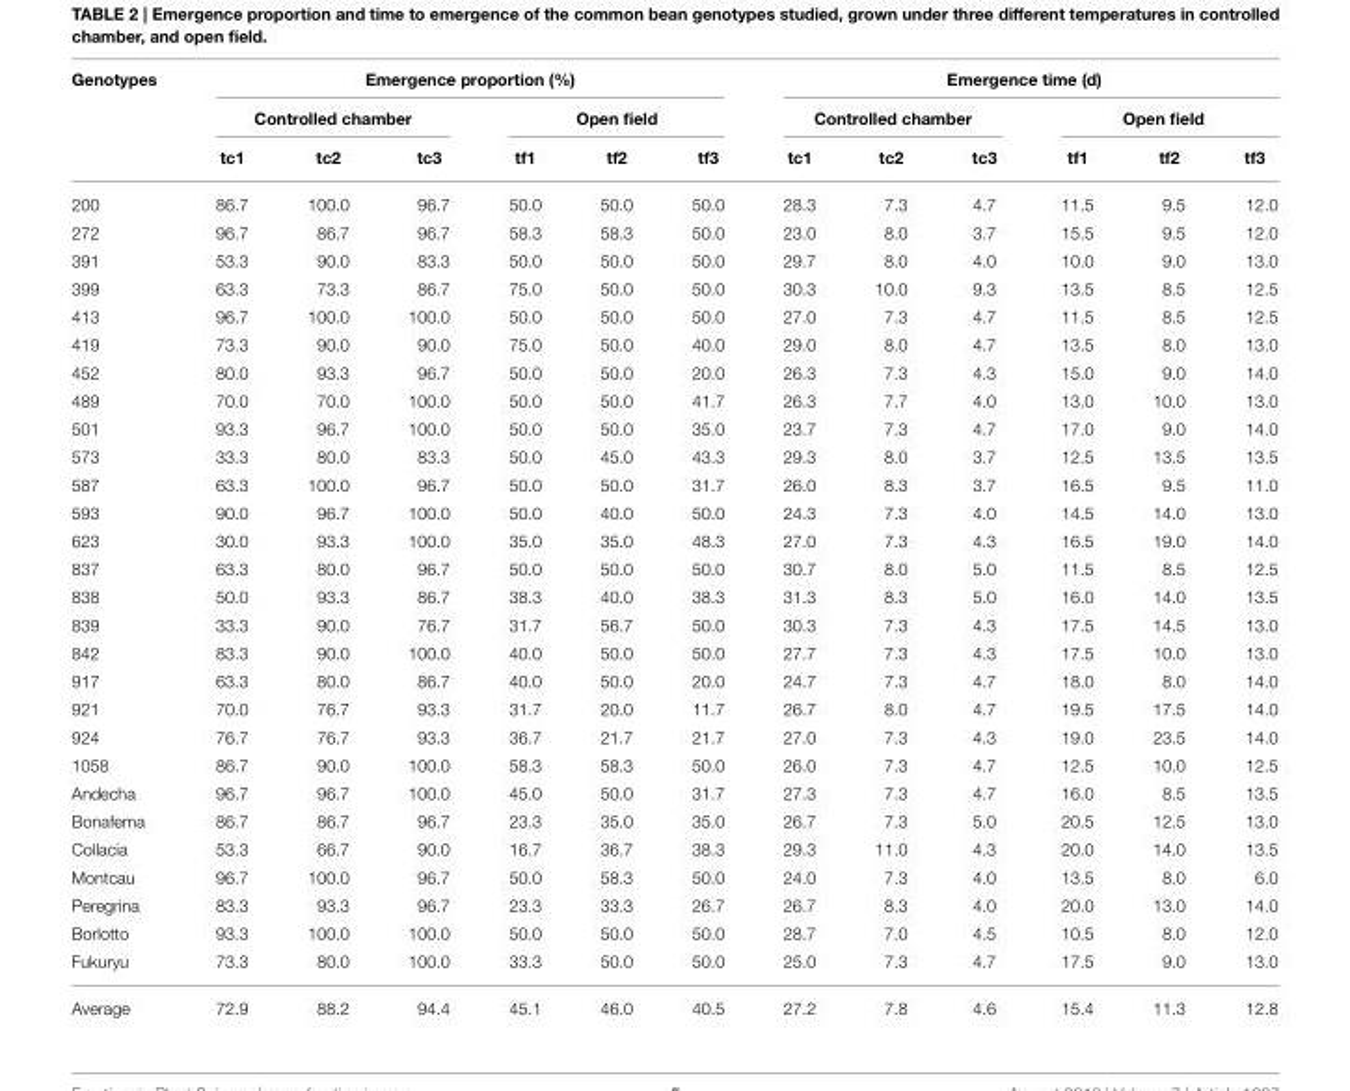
<table><thead><tr><td rowspan="3">Genotypes</td><td colspan="6">Emergence proportion (%)</td><td colspan="6">Emergence time (d)</td></tr><tr><td colspan="3">Controlled chamber</td><td colspan="3">Open field</td><td colspan="3">Controlled chamber</td><td colspan="3">Open field</td></tr><tr><td>tc1</td><td>tc2</td><td>tc3</td><td>tf1</td><td>tf2</td><td>tf3</td><td>tc1</td><td>tc2</td><td>tc3</td><td>tf1</td><td>tf2</td><td>tf3</td></tr></thead><tbody><tr><td>200</td><td>86.7</td><td>100.0</td><td>96.7</td><td>50.0</td><td>50.0</td><td>50.0</td><td>28.3</td><td>7.3</td><td>4.7</td><td>11.5</td><td>9.5</td><td>12.0</td></tr><tr><td>272</td><td>96.7</td><td>86.7</td><td>96.7</td><td>58.3</td><td>58.3</td><td>50.0</td><td>23.0</td><td>8.0</td><td>3.7</td><td>15.5</td><td>9.5</td><td>12.0</td></tr><tr><td>391</td><td>53.3</td><td>90.0</td><td>83.3</td><td>50.0</td><td>50.0</td><td>50.0</td><td>29.7</td><td>8.0</td><td>4.0</td><td>10.0</td><td>9.0</td><td>13.0</td></tr><tr><td>399</td><td>63.3</td><td>73.3</td><td>86.7</td><td>75.0</td><td>50.0</td><td>50.0</td><td>30.3</td><td>10.0</td><td>9.3</td><td>13.5</td><td>8.5</td><td>12.5</td></tr><tr><td>413</td><td>96.7</td><td>100.0</td><td>100.0</td><td>50.0</td><td>50.0</td><td>50.0</td><td>27.0</td><td>7.3</td><td>4.7</td><td>11.5</td><td>8.5</td><td>12.5</td></tr><tr><td>419</td><td>73.3</td><td>90.0</td><td>90.0</td><td>75.0</td><td>50.0</td><td>40.0</td><td>29.0</td><td>8.0</td><td>4.7</td><td>13.5</td><td>8.0</td><td>13.0</td></tr><tr><td>452</td><td>80.0</td><td>93.3</td><td>96.7</td><td>50.0</td><td>50.0</td><td>20.0</td><td>26.3</td><td>7.3</td><td>4.3</td><td>15.0</td><td>9.0</td><td>14.0</td></tr><tr><td>489</td><td>70.0</td><td>70.0</td><td>100.0</td><td>50.0</td><td>50.0</td><td>41.7</td><td>26.3</td><td>7.7</td><td>4.0</td><td>13.0</td><td>10.0</td><td>13.0</td></tr><tr><td>501</td><td>93.3</td><td>96.7</td><td>100.0</td><td>50.0</td><td>50.0</td><td>35.0</td><td>23.7</td><td>7.3</td><td>4.7</td><td>17.0</td><td>9.0</td><td>14.0</td></tr><tr><td>573</td><td>33.3</td><td>80.0</td><td>83.3</td><td>50.0</td><td>45.0</td><td>43.3</td><td>29.3</td><td>8.0</td><td>3.7</td><td>12.5</td><td>13.5</td><td>13.5</td></tr><tr><td>587</td><td>63.3</td><td>100.0</td><td>96.7</td><td>50.0</td><td>50.0</td><td>31.7</td><td>26.0</td><td>8.3</td><td>3.7</td><td>16.5</td><td>9.5</td><td>11.0</td></tr><tr><td>593</td><td>90.0</td><td>96.7</td><td>100.0</td><td>50.0</td><td>40.0</td><td>50.0</td><td>24.3</td><td>7.3</td><td>4.0</td><td>14.5</td><td>14.0</td><td>13.0</td></tr><tr><td>623</td><td>30.0</td><td>93.3</td><td>100.0</td><td>35.0</td><td>35.0</td><td>48.3</td><td>27.0</td><td>7.3</td><td>4.3</td><td>16.5</td><td>19.0</td><td>14.0</td></tr><tr><td>837</td><td>63.3</td><td>80.0</td><td>96.7</td><td>50.0</td><td>50.0</td><td>50.0</td><td>30.7</td><td>8.0</td><td>5.0</td><td>11.5</td><td>8.5</td><td>12.5</td></tr><tr><td>838</td><td>50.0</td><td>93.3</td><td>86.7</td><td>38.3</td><td>40.0</td><td>38.3</td><td>31.3</td><td>8.3</td><td>5.0</td><td>16.0</td><td>14.0</td><td>13.5</td></tr><tr><td>839</td><td>33.3</td><td>90.0</td><td>76.7</td><td>31.7</td><td>56.7</td><td>50.0</td><td>30.3</td><td>7.3</td><td>4.3</td><td>17.5</td><td>14.5</td><td>13.0</td></tr><tr><td>842</td><td>83.3</td><td>90.0</td><td>100.0</td><td>40.0</td><td>50.0</td><td>50.0</td><td>27.7</td><td>7.3</td><td>4.3</td><td>17.5</td><td>10.0</td><td>13.0</td></tr><tr><td>917</td><td>63.3</td><td>80.0</td><td>86.7</td><td>40.0</td><td>50.0</td><td>20.0</td><td>24.7</td><td>7.3</td><td>4.7</td><td>18.0</td><td>8.0</td><td>14.0</td></tr><tr><td>921</td><td>70.0</td><td>76.7</td><td>93.3</td><td>31.7</td><td>20.0</td><td>11.7</td><td>26.7</td><td>8.0</td><td>4.7</td><td>19.5</td><td>17.5</td><td>14.0</td></tr><tr><td>924</td><td>76.7</td><td>76.7</td><td>93.3</td><td>36.7</td><td>21.7</td><td>21.7</td><td>27.0</td><td>7.3</td><td>4.3</td><td>19.0</td><td>23.5</td><td>14.0</td></tr><tr><td>1058</td><td>86.7</td><td>90.0</td><td>100.0</td><td>58.3</td><td>58.3</td><td>50.0</td><td>26.0</td><td>7.3</td><td>4.7</td><td>12.5</td><td>10.0</td><td>12.5</td></tr><tr><td>Andecha</td><td>96.7</td><td>96.7</td><td>100.0</td><td>45.0</td><td>50.0</td><td>31.7</td><td>27.3</td><td>7.3</td><td>4.7</td><td>16.0</td><td>8.5</td><td>13.5</td></tr><tr><td>Bonafema</td><td>86.7</td><td>86.7</td><td>96.7</td><td>23.3</td><td>35.0</td><td>35.0</td><td>26.7</td><td>7.3</td><td>5.0</td><td>20.5</td><td>12.5</td><td>13.0</td></tr><tr><td>Collacia</td><td>53.3</td><td>66.7</td><td>90.0</td><td>16.7</td><td>36.7</td><td>38.3</td><td>29.3</td><td>11.0</td><td>4.3</td><td>20.0</td><td>14.0</td><td>13.5</td></tr><tr><td>Montcau</td><td>96.7</td><td>100.0</td><td>96.7</td><td>50.0</td><td>58.3</td><td>50.0</td><td>24.0</td><td>7.3</td><td>4.0</td><td>13.5</td><td>8.0</td><td>6.0</td></tr><tr><td>Peregrina</td><td>83.3</td><td>93.3</td><td>96.7</td><td>23.3</td><td>33.3</td><td>26.7</td><td>26.7</td><td>8.3</td><td>4.0</td><td>20.0</td><td>13.0</td><td>14.0</td></tr><tr><td>Borlotto</td><td>93.3</td><td>100.0</td><td>100.0</td><td>50.0</td><td>50.0</td><td>50.0</td><td>28.7</td><td>7.0</td><td>4.5</td><td>10.5</td><td>8.0</td><td>12.0</td></tr><tr><td>Fukuryu</td><td>73.3</td><td>80.0</td><td>100.0</td><td>33.3</td><td>50.0</td><td>50.0</td><td>25.0</td><td>7.3</td><td>4.7</td><td>17.5</td><td>9.0</td><td>13.0</td></tr><tr><td>Average</td><td>72.9</td><td>88.2</td><td>94.4</td><td>45.1</td><td>46.0</td><td>40.5</td><td>27.2</td><td>7.8</td><td>4.6</td><td>15.4</td><td>11.3</td><td>12.8</td></tr></tbody></table>